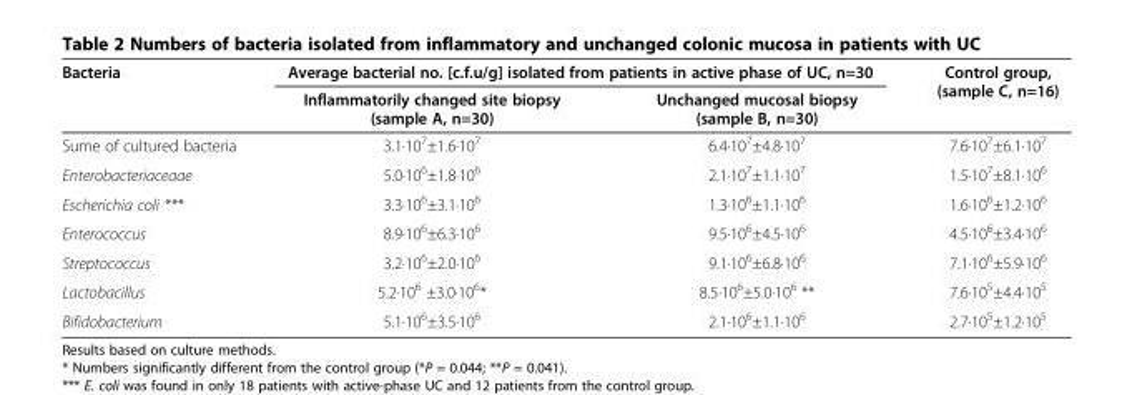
<table><thead><tr><td rowspan="2">Bacteria</td><td colspan="2">Average bacterial no. [c.f.u/g] isolated from patients in active phase of UC, n=30</td><td rowspan="2">Control group, (sample C, n=16)</td></tr><tr><td>Inflammatorily changed site biopsy (sample A, n=30)</td><td>Unchanged mucosal biopsy (sample B, n=30)</td></tr></thead><tbody><tr><td>Sume of cultured bacteria</td><td>3.1·10<sup>7</sup>±1.6·10<sup>7</sup></td><td>6.4·10<sup>7</sup>±4.8·10<sup>7</sup></td><td>7.6·10<sup>7</sup>±6.1·10<sup>7</sup></td></tr><tr><td>Enterobacteriaceaae</td><td>5.0·10<sup>6</sup>±1.8·10<sup>6</sup></td><td>2.1·10<sup>7</sup>±1.1·10<sup>7</sup></td><td>1.5·10<sup>7</sup>±8.1·10<sup>6</sup></td></tr><tr><td>Escherichia coli ***</td><td>3.3·10<sup>6</sup>±3.1·10<sup>6</sup></td><td>1.3·10<sup>6</sup>±1.1·10<sup>6</sup></td><td>1.6·10<sup>6</sup>±1.2·10<sup>6</sup></td></tr><tr><td>Enterococcus</td><td>8.9·10<sup>6</sup>±6.3·10<sup>6</sup></td><td>9.5·10<sup>6</sup>±4.5·10<sup>6</sup></td><td>4.5·10<sup>6</sup>±3.4·10<sup>6</sup></td></tr><tr><td>Streptococcus</td><td>3.2·10<sup>6</sup>±2.0·10<sup>6</sup></td><td>9.1·10<sup>6</sup>±6.8·10<sup>6</sup></td><td>7.1·10<sup>6</sup>±5.9·10<sup>6</sup></td></tr><tr><td>Lactobacillus</td><td>5.2·10<sup>6</sup> ±3.0·10<sup>6</sup>*</td><td>8.5·10<sup>6</sup>±5.0·10<sup>6</sup> **</td><td>7.6·10<sup>5</sup>±4.4·10<sup>5</sup></td></tr><tr><td>Bifidobacterium</td><td>5.1·10<sup>6</sup>±3.5·10<sup>6</sup></td><td>2.1·10<sup>6</sup>±1.1·10<sup>6</sup></td><td>2.7·10<sup>5</sup>±1.2·10<sup>5</sup></td></tr></tbody></table>